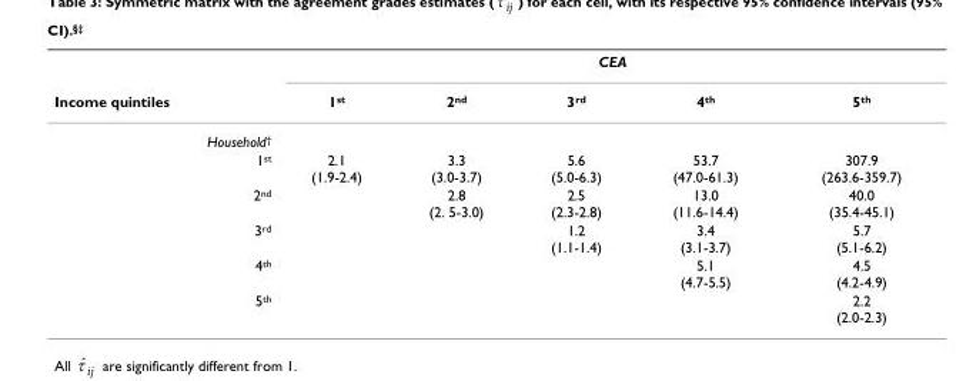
<table><thead><tr><td rowspan="2">Income quintiles</td><td colspan="5">CEA</td></tr><tr><td>1st</td><td>2<sup>nd</sup></td><td>3<sup>rd</sup></td><td>4<sup>th</sup></td><td>5<sup>th</sup></td></tr></thead><tbody><tr><td colspan="6">Household<sup>†</sup></td></tr><tr><td>1<sup>st</sup></td><td>2.1 (1.9-2.4)</td><td>3.3 (3.0-3.7)</td><td>5.6 (5.0-6.3)</td><td>53.7 (47.0-61.3)</td><td>307.9 (263.6-359.7)</td></tr><tr><td>2<sup>nd</sup></td><td></td><td>2.8 (2. 5-3.0)</td><td>2.5 (2.3-2.8)</td><td>13.0 (11.6-14.4)</td><td>40.0 (35.4-45.1)</td></tr><tr><td>3<sup>rd</sup></td><td></td><td></td><td>1.2 (1.1-1.4)</td><td>3.4 (3.1-3.7)</td><td>5.7 (5.1-6.2)</td></tr><tr><td>4<sup>th</sup></td><td></td><td></td><td></td><td>5.1 (4.7-5.5)</td><td>4.5 (4.2-4.9)</td></tr><tr><td>5<sup>th</sup></td><td></td><td></td><td></td><td></td><td>2.2 (2.0-2.3)</td></tr></tbody></table>